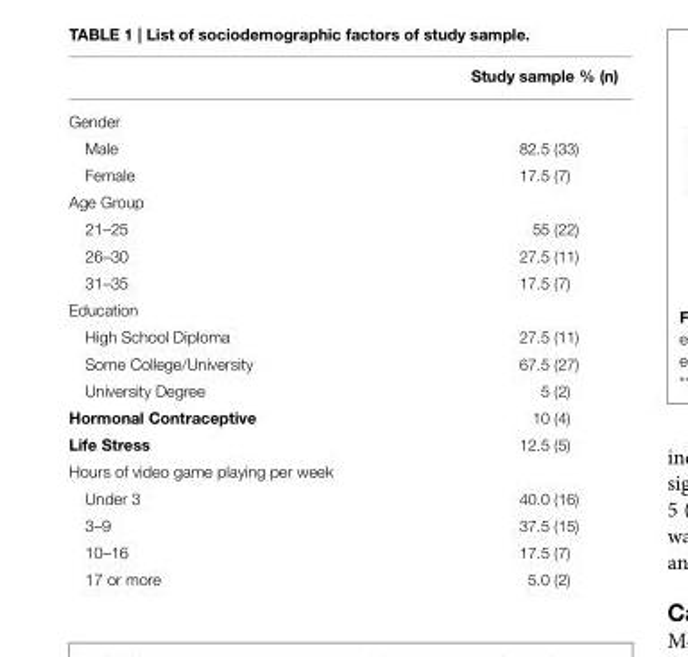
<table><thead><tr><td></td><td>Study sample % (n)</td></tr></thead><tbody><tr><td colspan="2">Gender</td></tr><tr><td>Male</td><td>82.5 (33)</td></tr><tr><td>Female</td><td>17.5 (7)</td></tr><tr><td colspan="2">Age Group</td></tr><tr><td>21–25</td><td>55 (22)</td></tr><tr><td>26–30</td><td>27.5 (11)</td></tr><tr><td>31–35</td><td>17.5 (7)</td></tr><tr><td colspan="2">Education</td></tr><tr><td>High School Diploma</td><td>27.5 (11)</td></tr><tr><td>Some College/University</td><td>67.5 (27)</td></tr><tr><td>University Degree</td><td>5 (2)</td></tr><tr><td>Hormonal Contraceptive</td><td>10 (4)</td></tr><tr><td>Life Stress</td><td>12.5 (5)</td></tr><tr><td colspan="2">Hours of video game playing per week</td></tr><tr><td>Under 3</td><td>40.0 (16)</td></tr><tr><td>3–9</td><td>37.5 (15)</td></tr><tr><td>10–16</td><td>17.5 (7)</td></tr><tr><td>17 or more</td><td>5.0 (2)</td></tr></tbody></table>